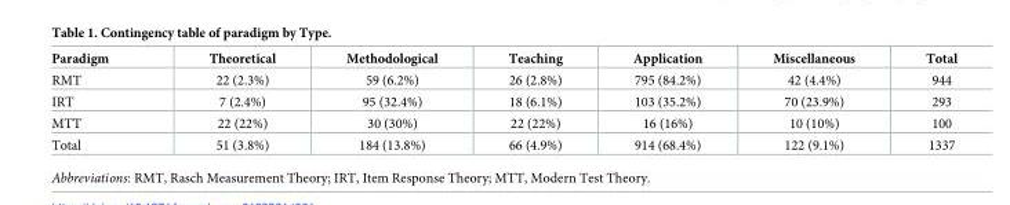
<table><thead><tr><td>Paradigm</td><td>Theoretical</td><td>Methodological</td><td>Teaching</td><td>Application</td><td>Miscellaneous</td><td>Total</td></tr></thead><tbody><tr><td>RMT</td><td>22 (2.3%)</td><td>59 (6.2%)</td><td>26 (2.8%)</td><td>795 (84.2%)</td><td>42 (4.4%)</td><td>944</td></tr><tr><td>IRT</td><td>7 (2.4%)</td><td>95 (32.4%)</td><td>18 (6.1%)</td><td>103 (35.2%)</td><td>70 (23.9%)</td><td>293</td></tr><tr><td>MTT</td><td>22 (22%)</td><td>30 (30%)</td><td>22 (22%)</td><td>16 (16%)</td><td>10 (10%)</td><td>100</td></tr><tr><td>Total</td><td>51 (3.8%)</td><td>184 (13.8%)</td><td>66 (4.9%)</td><td>914 (68.4%)</td><td>122 (9.1%)</td><td>1337</td></tr></tbody></table>